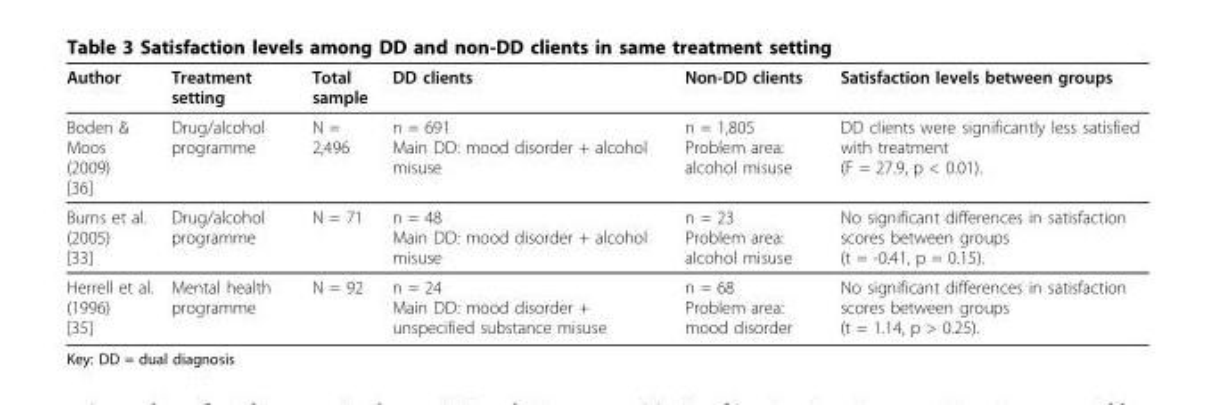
<table><thead><tr><td>Author</td><td>Treatment setting</td><td>Total sample</td><td>DD clients</td><td>Non-DD clients</td><td>Satisfaction levels between groups</td></tr></thead><tbody><tr><td>Boden &amp; Moos (2009) [36]</td><td>Drug/alcohol programme</td><td>N = 2,496</td><td>n = 691 Main DD: mood disorder + alcohol misuse</td><td>n = 1,805 Problem area: alcohol misuse</td><td>DD clients were significantly less satisfied with treatment (F = 27.9, p &lt; 0.01).</td></tr><tr><td>Burns et al. (2005) [33]</td><td>Drug/alcohol programme</td><td>N = 71</td><td>n = 48 Main DD: mood disorder + alcohol misuse</td><td>n = 23 Problem area: alcohol misuse</td><td>No significant differences in satisfaction scores between groups (t = -0.41, p = 0.15).</td></tr><tr><td>Herrell et al. (1996) [35]</td><td>Mental health programme</td><td>N = 92</td><td>n = 24 Main DD: mood disorder + unspecified substance misuse</td><td>n = 68 Problem area: mood disorder</td><td>No significant differences in satisfaction scores between groups (t = 1.14, p &gt; 0.25).</td></tr></tbody></table>